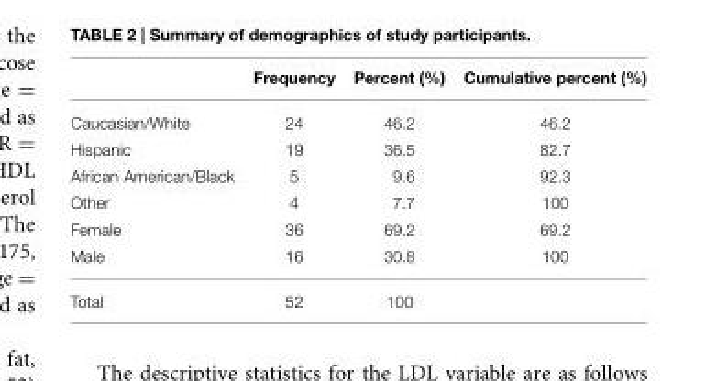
<table><thead><tr><td></td><td>Frequency</td><td>Percent (%)</td><td>Cumulative percent (%)</td></tr></thead><tbody><tr><td>Caucasian/White</td><td>24</td><td>46.2</td><td>46.2</td></tr><tr><td>Hispanic</td><td>19</td><td>36.5</td><td>82.7</td></tr><tr><td>African American/Black</td><td>5</td><td>9.6</td><td>92.3</td></tr><tr><td>Other</td><td>4</td><td>7.7</td><td>100</td></tr><tr><td>Female</td><td>36</td><td>69.2</td><td>69.2</td></tr><tr><td>Male</td><td>16</td><td>30.8</td><td>100</td></tr><tr><td>Total</td><td>52</td><td>100</td><td></td></tr></tbody></table>